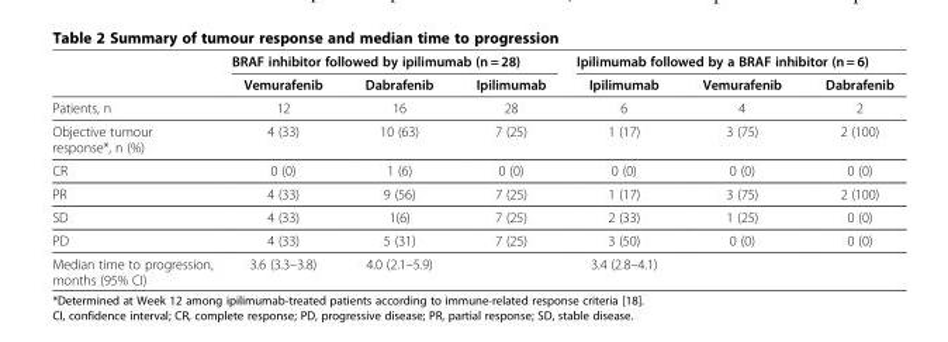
<table><thead><tr><td rowspan="2"></td><td colspan="3">BRAF inhibitor followed by ipilimumab (n = 28)</td><td colspan="3">Ipilimumab followed by a BRAF inhibitor (n = 6)</td></tr><tr><td>Vemurafenib</td><td>Dabrafenib</td><td>Ipilimumab</td><td>Ipilimumab</td><td>Vemurafenib</td><td>Dabrafenib</td></tr></thead><tbody><tr><td>Patients, n</td><td>12</td><td>16</td><td>28</td><td>6</td><td>4</td><td>2</td></tr><tr><td>Objective tumour response*, n (%)</td><td>4 (33)</td><td>10 (63)</td><td>7 (25)</td><td>1 (17)</td><td>3 (75)</td><td>2 (100)</td></tr><tr><td>CR</td><td>0 (0)</td><td>1 (6)</td><td>0 (0)</td><td>0 (0)</td><td>0 (0)</td><td>0 (0)</td></tr><tr><td>PR</td><td>4 (33)</td><td>9 (56)</td><td>7 (25)</td><td>1 (17)</td><td>3 (75)</td><td>2 (100)</td></tr><tr><td>SD</td><td>4 (33)</td><td>1(6)</td><td>7 (25)</td><td>2 (33)</td><td>1 (25)</td><td>0 (0)</td></tr><tr><td>PD</td><td>4 (33)</td><td>5 (31)</td><td>7 (25)</td><td>3 (50)</td><td>0 (0)</td><td>0 (0)</td></tr><tr><td>Median time to progression, months (95% CI)</td><td>3.6 (3.3–3.8)</td><td>4.0 (2.1–5.9)</td><td></td><td>3.4 (2.8–4.1)</td><td></td><td></td></tr></tbody></table>